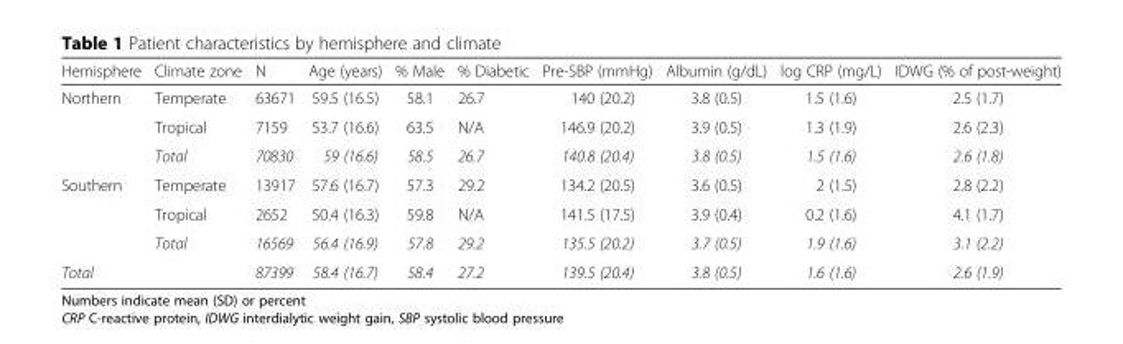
<table><thead><tr><td>Hemisphere</td><td>Climate zone</td><td>N</td><td>Age (years)</td><td>% Male</td><td>% Diabetic</td><td>Pre-SBP (mmHg)</td><td>Albumin (g/dL)</td><td>log CRP (mg/L)</td><td>IDWG (% of post-weight)</td></tr></thead><tbody><tr><td rowspan="3">Northern</td><td>Temperate</td><td>63671</td><td>59.5 (16.5)</td><td>58.1</td><td>26.7</td><td>140 (20.2)</td><td>3.8 (0.5)</td><td>1.5 (1.6)</td><td>2.5 (1.7)</td></tr><tr><td>Tropical</td><td>7159</td><td>53.7 (16.6)</td><td>63.5</td><td>N/A</td><td>146.9 (20.2)</td><td>3.9 (0.5)</td><td>1.3 (1.9)</td><td>2.6 (2.3)</td></tr><tr><td>Total</td><td>70830</td><td>59 (16.6)</td><td>58.5</td><td>26.7</td><td>140.8 (20.4)</td><td>3.8 (0.5)</td><td>1.5 (1.6)</td><td>2.6 (1.8)</td></tr><tr><td rowspan="3">Southern</td><td>Temperate</td><td>13917</td><td>57.6 (16.7)</td><td>57.3</td><td>29.2</td><td>134.2 (20.5)</td><td>3.6 (0.5)</td><td>2 (1.5)</td><td>2.8 (2.2)</td></tr><tr><td>Tropical</td><td>2652</td><td>50.4 (16.3)</td><td>59.8</td><td>N/A</td><td>141.5 (17.5)</td><td>3.9 (0.4)</td><td>0.2 (1.6)</td><td>4.1 (1.7)</td></tr><tr><td>Total</td><td>16569</td><td>56.4 (16.9)</td><td>57.8</td><td>29.2</td><td>135.5 (20.2)</td><td>3.7 (0.5)</td><td>1.9 (1.6)</td><td>3.1 (2.2)</td></tr><tr><td>Total</td><td></td><td>87399</td><td>58.4 (16.7)</td><td>58.4</td><td>27.2</td><td>139.5 (20.4)</td><td>3.8 (0.5)</td><td>1.6 (1.6)</td><td>2.6 (1.9)</td></tr></tbody></table>